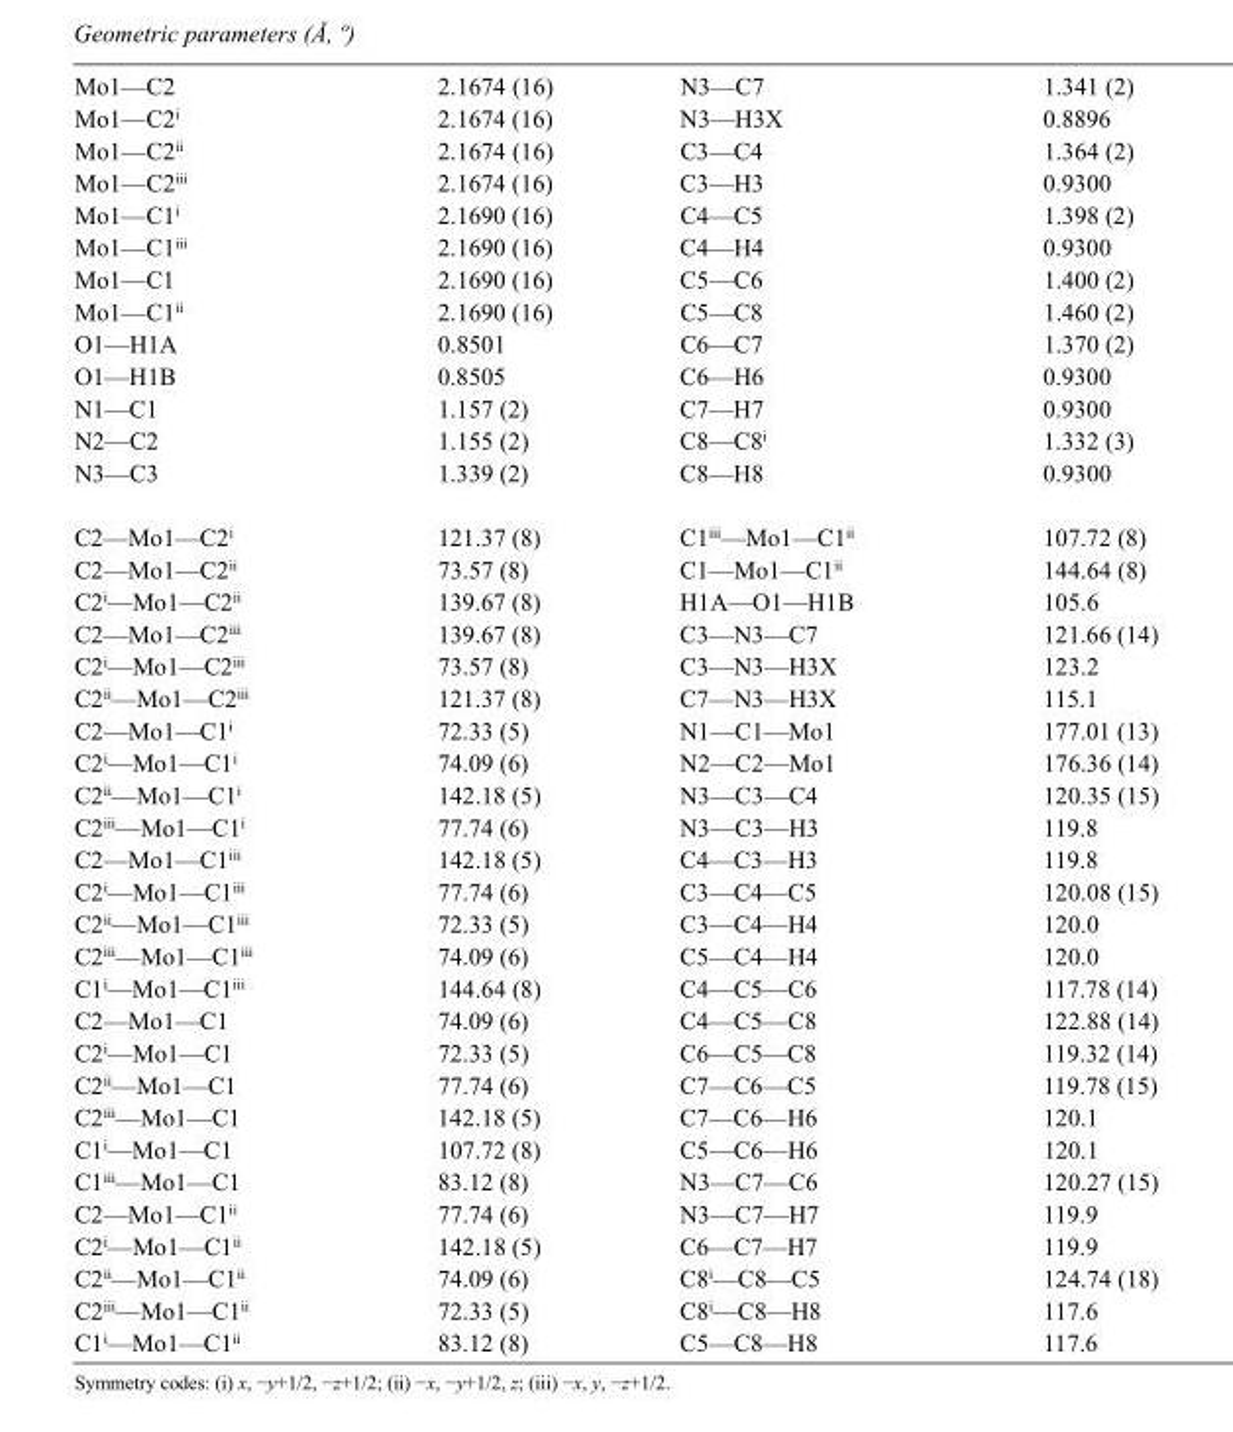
<table><tbody><tr><td>Mo1—C2</td><td>2.1674 (16)</td><td>N3—C7</td><td>1.341 (2)</td></tr><tr><td>Mo1—C2<sup>i</sup></td><td>2.1674 (16)</td><td>N3—H3X</td><td>0.8896</td></tr><tr><td>Mo1—C2<sup>ii</sup></td><td>2.1674 (16)</td><td>C3—C4</td><td>1.364 (2)</td></tr><tr><td>Mo1—C2<sup>iii</sup></td><td>2.1674 (16)</td><td>C3—H3</td><td>0.9300</td></tr><tr><td>Mo1—C1<sup>i</sup></td><td>2.1690 (16)</td><td>C4—C5</td><td>1.398 (2)</td></tr><tr><td>Mo1—C1<sup>iii</sup></td><td>2.1690 (16)</td><td>C4—H4</td><td>0.9300</td></tr><tr><td>Mo1—C1</td><td>2.1690 (16)</td><td>C5—C6</td><td>1.400 (2)</td></tr><tr><td>Mo1—C1<sup>ii</sup></td><td>2.1690 (16)</td><td>C5—C8</td><td>1.460 (2)</td></tr><tr><td>O1—H1A</td><td>0.8501</td><td>C6—C7</td><td>1.370 (2)</td></tr><tr><td>O1—H1B</td><td>0.8505</td><td>C6—H6</td><td>0.9300</td></tr><tr><td>N1—C1</td><td>1.157 (2)</td><td>C7—H7</td><td>0.9300</td></tr><tr><td>N2—C2</td><td>1.155 (2)</td><td>C8—C8<sup>i</sup></td><td>1.332 (3)</td></tr><tr><td>N3—C3</td><td>1.339 (2)</td><td>C8—H8</td><td>0.9300</td></tr><tr><td>C2—Mo1—C2<sup>i</sup></td><td>121.37 (8)</td><td>C1<sup>iii</sup>—Mo1—C1<sup>ii</sup></td><td>107.72 (8)</td></tr><tr><td>C2—Mo1—C2<sup>ii</sup></td><td>73.57 (8)</td><td>C1—Mo1—C1<sup>ii</sup></td><td>144.64 (8)</td></tr><tr><td>C2<sup>i</sup>—Mo1—C2<sup>ii</sup></td><td>139.67 (8)</td><td>H1A—O1—H1B</td><td>105.6</td></tr><tr><td>C2—Mo1—C2<sup>iii</sup></td><td>139.67 (8)</td><td>C3—N3—C7</td><td>121.66 (14)</td></tr><tr><td>C2<sup>i</sup>—Mo1—C2<sup>iii</sup></td><td>73.57 (8)</td><td>C3—N3—H3X</td><td>123.2</td></tr><tr><td>C2<sup>ii</sup>—Mo1—C2<sup>iii</sup></td><td>121.37 (8)</td><td>C7—N3—H3X</td><td>115.1</td></tr><tr><td>C2—Mo1—C1<sup>i</sup></td><td>72.33 (5)</td><td>N1—C1—Mo1</td><td>177.01 (13)</td></tr><tr><td>C2<sup>i</sup>—Mo1—C1<sup>i</sup></td><td>74.09 (6)</td><td>N2—C2—Mo1</td><td>176.36 (14)</td></tr><tr><td>C2<sup>ii</sup>—Mo1—C1<sup>i</sup></td><td>142.18 (5)</td><td>N3—C3—C4</td><td>120.35 (15)</td></tr><tr><td>C2<sup>iii</sup>—Mo1—C1<sup>i</sup></td><td>77.74 (6)</td><td>N3—C3—H3</td><td>119.8</td></tr><tr><td>C2—Mo1—C1<sup>iii</sup></td><td>142.18 (5)</td><td>C4—C3—H3</td><td>119.8</td></tr><tr><td>C2<sup>i</sup>—Mo1—C1<sup>iii</sup></td><td>77.74 (6)</td><td>C3—C4—C5</td><td>120.08 (15)</td></tr><tr><td>C2<sup>ii</sup>—Mo1—C1<sup>iii</sup></td><td>72.33 (5)</td><td>C3—C4—H4</td><td>120.0</td></tr><tr><td>C2<sup>iii</sup>—Mo1—C1<sup>iii</sup></td><td>74.09 (6)</td><td>C5—C4—H4</td><td>120.0</td></tr><tr><td>C1<sup>i</sup>—Mo1—C1<sup>iii</sup></td><td>144.64 (8)</td><td>C4—C5—C6</td><td>117.78 (14)</td></tr><tr><td>C2—Mo1—C1</td><td>74.09 (6)</td><td>C4—C5—C8</td><td>122.88 (14)</td></tr><tr><td>C2<sup>i</sup>—Mo1—C1</td><td>72.33 (5)</td><td>C6—C5—C8</td><td>119.32 (14)</td></tr><tr><td>C2<sup>ii</sup>—Mo1—C1</td><td>77.74 (6)</td><td>C7—C6—C5</td><td>119.78 (15)</td></tr><tr><td>C2<sup>iii</sup>—Mo1—C1</td><td>142.18 (5)</td><td>C7—C6—H6</td><td>120.1</td></tr><tr><td>C1<sup>i</sup>—Mo1—C1</td><td>107.72 (8)</td><td>C5—C6—H6</td><td>120.1</td></tr><tr><td>C1<sup>iii</sup>—Mo1—C1</td><td>83.12 (8)</td><td>N3—C7—C6</td><td>120.27 (15)</td></tr><tr><td>C2—Mo1—C1<sup>ii</sup></td><td>77.74 (6)</td><td>N3—C7—H7</td><td>119.9</td></tr><tr><td>C2<sup>i</sup>—Mo1—C1<sup>ii</sup></td><td>142.18 (5)</td><td>C6—C7—H7</td><td>119.9</td></tr><tr><td>C2<sup>ii</sup>—Mo1—C1<sup>ii</sup></td><td>74.09 (6)</td><td>C8<sup>i</sup>—C8—C5</td><td>124.74 (18)</td></tr><tr><td>C2<sup>iii</sup>—Mo1—C1<sup>ii</sup></td><td>72.33 (5)</td><td>C8<sup>i</sup>—C8—H8</td><td>117.6</td></tr><tr><td>C1<sup>i</sup>—Mo1—C1<sup>ii</sup></td><td>83.12 (8)</td><td>C5—C8—H8</td><td>117.6</td></tr></tbody></table>